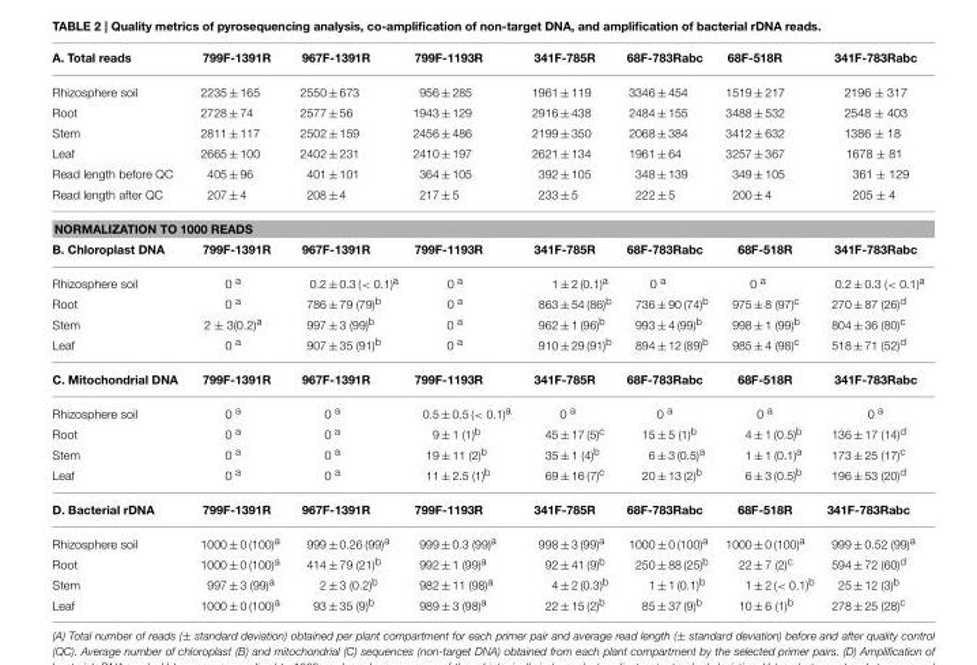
<table><thead><tr><td>A. Total reads</td><td>799F-1391R</td><td>967F-1391R</td><td>799F-1193R</td><td>341F-785R</td><td>68F-783Rabc</td><td>68F-518R</td><td>341F-783Rabc</td></tr></thead><tbody><tr><td>Rhizosphere soil</td><td>2235 ± 165</td><td>2550 ± 673</td><td>956 ± 285</td><td>1961 ± 119</td><td>3346 ± 454</td><td>1519 ± 217</td><td>2196 ± 317</td></tr><tr><td>Root</td><td>2728 ± 74</td><td>2577 ± 56</td><td>1943 ± 129</td><td>2916 ± 438</td><td>2484 ± 155</td><td>3488 ± 532</td><td>2548 ± 403</td></tr><tr><td>Stem</td><td>2811 ± 117</td><td>2502 ± 159</td><td>2456 ± 486</td><td>2199 ± 350</td><td>2068 ± 384</td><td>3412 ± 632</td><td>1386 ± 18</td></tr><tr><td>Leaf</td><td>2665 ± 100</td><td>2402 ± 231</td><td>2410 ± 197</td><td>2621 ± 134</td><td>1961 ± 64</td><td>3257 ± 367</td><td>1678 ± 81</td></tr><tr><td>Read length before QC</td><td>405 ± 96</td><td>401 ± 101</td><td>364 ± 105</td><td>392 ± 105</td><td>348 ± 139</td><td>349 ± 105</td><td>361 ± 129</td></tr><tr><td>Read length after QC</td><td>207 ± 4</td><td>208 ± 4</td><td>217 ± 5</td><td>233 ± 5</td><td>222 ± 5</td><td>200 ± 4</td><td>205 ± 4</td></tr><tr><td colspan="8">NORMALIZATION TO 1000 READS</td></tr><tr><td>B. Chloroplast DNA</td><td>799F-1391R</td><td>967F-1391R</td><td>799F-1193R</td><td>341F-785R</td><td>68F-783Rabc</td><td>68F-518R</td><td>341F-783Rabc</td></tr><tr><td>Rhizosphere soil</td><td>0 <sup>a</sup></td><td>0.2 ± 0.3 (&lt; 0.1)<sup>a</sup></td><td>0 <sup>a</sup></td><td>1 ± 2 (0.1)<sup>a</sup></td><td>0 <sup>a</sup></td><td>0 <sup>a</sup></td><td>0.2 ± 0.3 (&lt; 0.1)<sup>a</sup></td></tr><tr><td>Root</td><td>0 <sup>a</sup></td><td>786 ± 79 (79)<sup>b</sup></td><td>0 <sup>a</sup></td><td>863 ± 54 (86)<sup>b</sup></td><td>736 ± 90 (74)<sup>b</sup></td><td>975 ± 8 (97)<sup>c</sup></td><td>270 ± 87 (26)<sup>d</sup></td></tr><tr><td>Stem</td><td>2 ± 3(0.2)<sup>a</sup></td><td>997 ± 3 (99)<sup>b</sup></td><td>0 <sup>a</sup></td><td>962 ± 1 (96)<sup>b</sup></td><td>993 ± 4 (99)<sup>b</sup></td><td>998 ± 1 (99)<sup>b</sup></td><td>804 ± 36 (80)<sup>c</sup></td></tr><tr><td>Leaf</td><td>0 <sup>a</sup></td><td>907 ± 35 (91)<sup>b</sup></td><td>0 <sup>a</sup></td><td>910 ± 29 (91)<sup>b</sup></td><td>894 ± 12 (89)<sup>b</sup></td><td>985 ± 4 (98)<sup>c</sup></td><td>518 ± 71 (52)<sup>d</sup></td></tr><tr><td>C. Mitochondrial DNA</td><td>799F-1391R</td><td>967F-1391R</td><td>799F-1193R</td><td>341F-785R</td><td>68F-783Rabc</td><td>68F-518R</td><td>341F-783Rabc</td></tr><tr><td>Rhizosphere soil</td><td>0 <sup>a</sup></td><td>0 <sup>a</sup></td><td>0.5 ± 0.5 (&lt; 0.1)<sup>a</sup></td><td>0 <sup>a</sup></td><td>0 <sup>a</sup></td><td>0 <sup>a</sup></td><td>0 <sup>a</sup></td></tr><tr><td>Root</td><td>0 <sup>a</sup></td><td>0 <sup>a</sup></td><td>9 ± 1 (1)<sup>b</sup></td><td>45 ± 17 (5)<sup>c</sup></td><td>15 ± 5 (1)<sup>b</sup></td><td>4 ± 1 (0.5)<sup>b</sup></td><td>136 ± 17 (14)<sup>d</sup></td></tr><tr><td>Stem</td><td>0 <sup>a</sup></td><td>0 <sup>a</sup></td><td>19 ± 11 (2)<sup>b</sup></td><td>35 ± 1 (4)<sup>b</sup></td><td>6 ± 3 (0.5)<sup>a</sup></td><td>1 ± 1 (0.1)<sup>a</sup></td><td>173 ± 25 (17)<sup>c</sup></td></tr><tr><td>Leaf</td><td>0 <sup>a</sup></td><td>0 <sup>a</sup></td><td>11 ± 2.5 (1)<sup>b</sup></td><td>69 ± 16 (7)<sup>c</sup></td><td>20 ± 13 (2)<sup>b</sup></td><td>6 ± 3 (0.5)<sup>b</sup></td><td>196 ± 53 (20)<sup>d</sup></td></tr><tr><td>D. Bacterial rDNA</td><td>799F-1391R</td><td>967F-1391R</td><td>799F-1193R</td><td>341F-785R</td><td>68F-783Rabc</td><td>68F-518R</td><td>341F-783Rabc</td></tr><tr><td>Rhizosphere soil</td><td>1000 ± 0 (100)<sup>a</sup></td><td>999 ± 0.26 (99)<sup>a</sup></td><td>999 ± 0.3 (99)<sup>a</sup></td><td>998 ± 3 (99)<sup>a</sup></td><td>1000 ± 0 (100)<sup>a</sup></td><td>1000 ± 0 (100)<sup>a</sup></td><td>999 ± 0.52 (99)<sup>a</sup></td></tr><tr><td>Root</td><td>1000 ± 0 (100)<sup>a</sup></td><td>414 ± 79 (21)<sup>b</sup></td><td>992 ± 1 (99)<sup>a</sup></td><td>92 ± 41 (9)<sup>b</sup></td><td>250 ± 88 (25)<sup>b</sup></td><td>22 ± 7 (2)<sup>c</sup></td><td>594 ± 72 (60)<sup>d</sup></td></tr><tr><td>Stem</td><td>997 ± 3 (99)<sup>a</sup></td><td>2 ± 3 (0.2)<sup>b</sup></td><td>982 ± 11 (98)<sup>a</sup></td><td>4 ± 2 (0.3)<sup>b</sup></td><td>1 ± 1 (0.1)<sup>b</sup></td><td>1 ± 2 (&lt; 0.1)<sup>b</sup></td><td>25 ± 12 (3)<sup>b</sup></td></tr><tr><td>Leaf</td><td>1000 ± 0 (100)<sup>a</sup></td><td>93 ± 35 (9)<sup>b</sup></td><td>989 ± 3 (98)<sup>a</sup></td><td>22 ± 15 (2)<sup>b</sup></td><td>85 ± 37 (9)<sup>b</sup></td><td>10 ± 6 (1)<sup>b</sup></td><td>278 ± 25 (28)<sup>c</sup></td></tr></tbody></table>